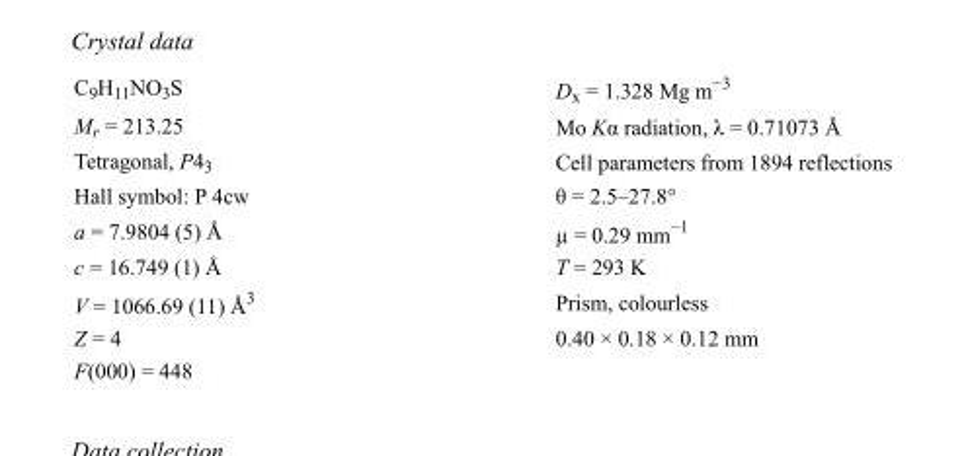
<table><tbody><tr><td>C<sub>9</sub>H<sub>11</sub>NO<sub>3</sub>S</td><td>D<sub>x</sub> = 1.328 Mg m<sup>−3</sup></td></tr><tr><td>M<sub>r</sub> = 213.25</td><td>Mo Kα radiation, λ = 0.71073 Å</td></tr><tr><td>Tetragonal, P4<sub>3</sub></td><td>Cell parameters from 1894 reflections</td></tr><tr><td>Hall symbol: P 4cw</td><td>θ = 2.5–27.8°</td></tr><tr><td>a = 7.9804 (5) Å</td><td>µ = 0.29 mm<sup>−1</sup></td></tr><tr><td>c = 16.749 (1) Å</td><td>T = 293 K</td></tr><tr><td>V = 1066.69 (11) Å<sup>3</sup></td><td>Prism, colourless</td></tr><tr><td>Z = 4</td><td>0.40 × 0.18 × 0.12 mm</td></tr><tr><td>F(000) = 448</td><td></td></tr></tbody></table>